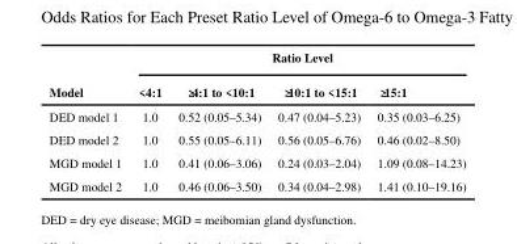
<table><thead><tr><td rowspan="2">Model</td><td colspan="4">Ratio Level</td></tr><tr><td>&lt;4:1</td><td>≥4:1 to &lt;10:1</td><td>≥10:1 to &lt;15:1</td><td>≥15:1</td></tr></thead><tbody><tr><td>DED model 1</td><td>1.0</td><td>0.52 (0.05–5.34)</td><td>0.47 (0.04–5.23)</td><td>0.35 (0.03–6.25)</td></tr><tr><td>DED model 2</td><td>1.0</td><td>0.55 (0.05–6.11)</td><td>0.56 (0.05–6.76)</td><td>0.46 (0.02–8.50)</td></tr><tr><td>MGD model 1</td><td>1.0</td><td>0.41 (0.06–3.06)</td><td>0.24 (0.03–2.04)</td><td>1.09 (0.08–14.23)</td></tr><tr><td>MGD model 2</td><td>1.0</td><td>0.46 (0.06–3.50)</td><td>0.34 (0.04–2.98)</td><td>1.41 (0.10–19.16)</td></tr></tbody></table>